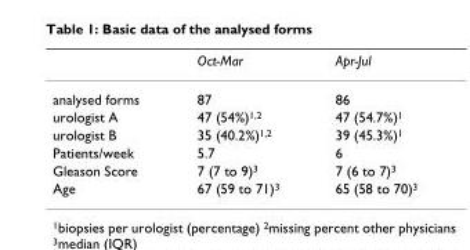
<table><thead><tr><td></td><td>Oct-Mar</td><td>Apr-Jul</td></tr></thead><tbody><tr><td>analysed forms</td><td>87</td><td>86</td></tr><tr><td>urologist A</td><td>47 (54%)<sup>1,2</sup></td><td>47 (54.7%)<sup>1</sup></td></tr><tr><td>urologist B</td><td>35 (40.2%)<sup>1,2</sup></td><td>39 (45.3%)<sup>1</sup></td></tr><tr><td>Patients/week</td><td>5.7</td><td>6</td></tr><tr><td>Gleason Score</td><td>7 (7 to 9)<sup>3</sup></td><td>7 (6 to 7)<sup>3</sup></td></tr><tr><td>Age</td><td>67 (59 to 71)<sup>3</sup></td><td>65 (58 to 70)<sup>3</sup></td></tr></tbody></table>